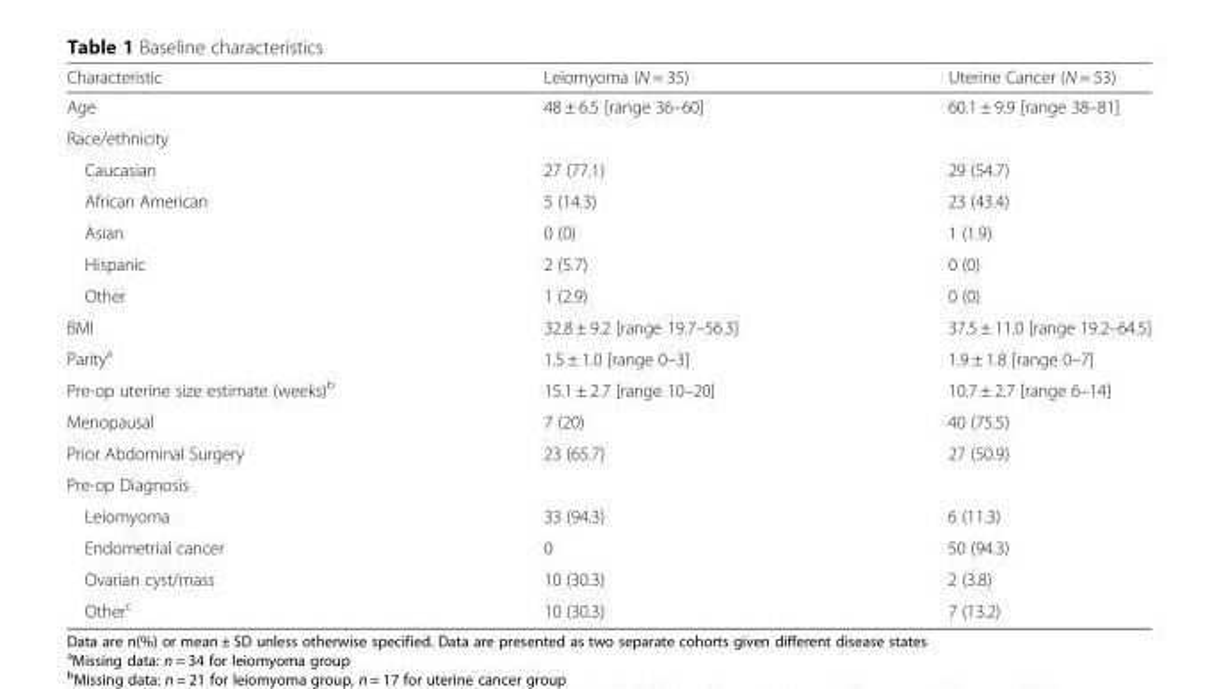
<table><thead><tr><td>Characteristic</td><td>Leiomyoma (N = 35)</td><td>Uterine Cancer (N = 53)</td></tr></thead><tbody><tr><td>Age</td><td>48 ± 6.5 [range 36–60]</td><td>60.1 ± 9.9 [range 38–81]</td></tr><tr><td colspan="3">Race/ethnicity</td></tr><tr><td>Caucasian</td><td>27 (77.1)</td><td>29 (54.7)</td></tr><tr><td>African American</td><td>5 (14.3)</td><td>23 (43.4)</td></tr><tr><td>Asian</td><td>0 (0)</td><td>1 (1.9)</td></tr><tr><td>Hispanic</td><td>2 (5.7)</td><td>0 (0)</td></tr><tr><td>Other</td><td>1 (2.9)</td><td>0 (0)</td></tr><tr><td>BMI</td><td>32.8 ± 9.2 [range 19.7–56.3]</td><td>37.5 ± 11.0 [range 19.2–64.5]</td></tr><tr><td>Parity<sup>a</sup></td><td>1.5 ± 1.0 [range 0–3]</td><td>1.9 ± 1.8 [range 0–7]</td></tr><tr><td>Pre-op uterine size estimate (weeks)<sup>b</sup></td><td>15.1 ± 2.7 [range 10–20]</td><td>10.7 ± 2.7 [range 6–14]</td></tr><tr><td>Menopausal</td><td>7 (20)</td><td>40 (75.5)</td></tr><tr><td>Prior Abdominal Surgery</td><td>23 (65.7)</td><td>27 (50.9)</td></tr><tr><td colspan="3">Pre-op Diagnosis</td></tr><tr><td>Leiomyoma</td><td>33 (94.3)</td><td>6 (11.3)</td></tr><tr><td>Endometrial cancer</td><td>0</td><td>50 (94.3)</td></tr><tr><td>Ovarian cyst/mass</td><td>10 (30.3)</td><td>2 (3.8)</td></tr><tr><td>Other<sup>c</sup></td><td>10 (30.3)</td><td>7 (13.2)</td></tr></tbody></table>